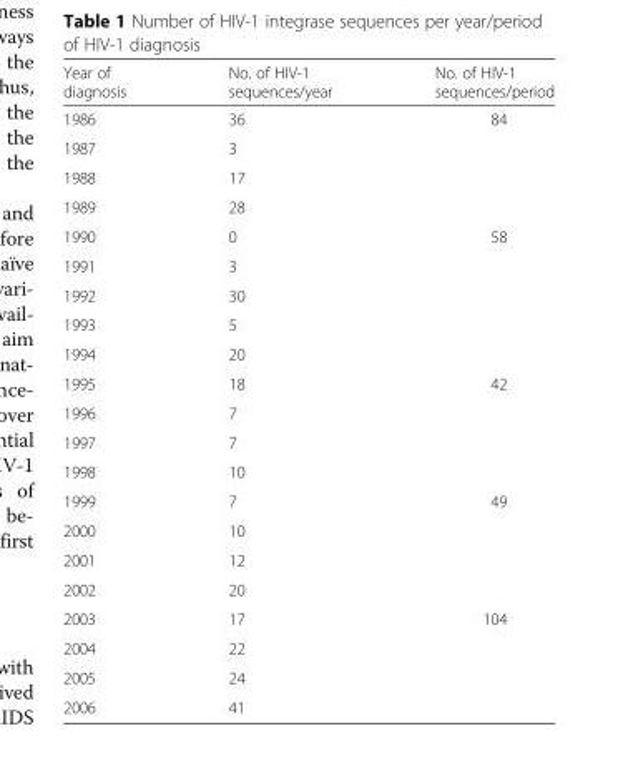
<table><thead><tr><td>Year of diagnosis</td><td>No. of HIV-1 sequences/year</td><td>No. of HIV-1 sequences/period</td></tr></thead><tbody><tr><td>1986</td><td>36</td><td rowspan="4">84</td></tr><tr><td>1987</td><td>3</td></tr><tr><td>1988</td><td>17</td></tr><tr><td>1989</td><td>28</td></tr><tr><td>1990</td><td>0</td><td rowspan="5">58</td></tr><tr><td>1991</td><td>3</td></tr><tr><td>1992</td><td>30</td></tr><tr><td>1993</td><td>5</td></tr><tr><td>1994</td><td>20</td></tr><tr><td>1995</td><td>18</td><td rowspan="4">42</td></tr><tr><td>1996</td><td>7</td></tr><tr><td>1997</td><td>7</td></tr><tr><td>1998</td><td>10</td></tr><tr><td>1999</td><td>7</td><td rowspan="4">49</td></tr><tr><td>2000</td><td>10</td></tr><tr><td>2001</td><td>12</td></tr><tr><td>2002</td><td>20</td></tr><tr><td>2003</td><td>17</td><td rowspan="4">104</td></tr><tr><td>2004</td><td>22</td></tr><tr><td>2005</td><td>24</td></tr><tr><td>2006</td><td>41</td></tr></tbody></table>